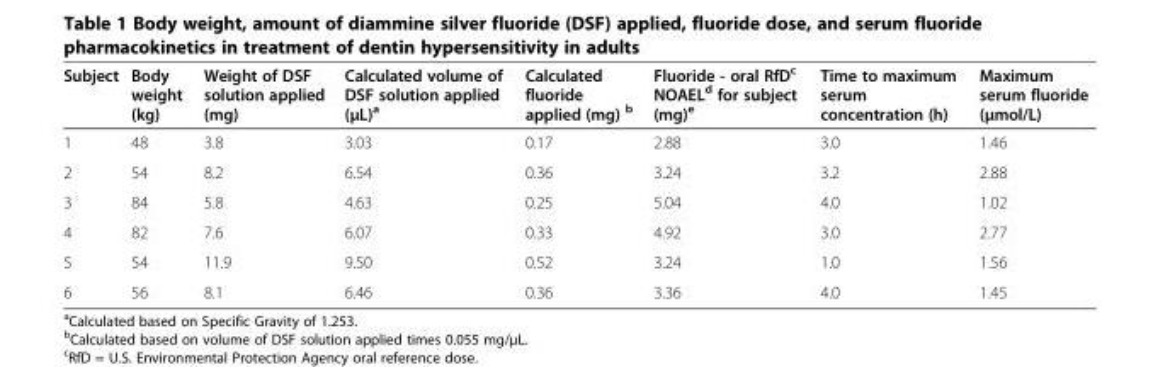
<table><thead><tr><td>Subject</td><td>Body weight (kg)</td><td>Weight of DSF solution applied (mg)</td><td>Calculated volume of DSF solution applied (μL)<sup>a</sup></td><td>Calculated fluoride applied (mg) <sup>b</sup></td><td>Fluoride - oral RfD<sup>c</sup> NOAEL<sup>d</sup> for subject (mg)<sup>e</sup></td><td>Time to maximum serum concentration (h)</td><td>Maximum serum fluoride (μmol/L)</td></tr></thead><tbody><tr><td>1</td><td>48</td><td>3.8</td><td>3.03</td><td>0.17</td><td>2.88</td><td>3.0</td><td>1.46</td></tr><tr><td>2</td><td>54</td><td>8.2</td><td>6.54</td><td>0.36</td><td>3.24</td><td>3.2</td><td>2.88</td></tr><tr><td>3</td><td>84</td><td>5.8</td><td>4.63</td><td>0.25</td><td>5.04</td><td>4.0</td><td>1.02</td></tr><tr><td>4</td><td>82</td><td>7.6</td><td>6.07</td><td>0.33</td><td>4.92</td><td>3.0</td><td>2.77</td></tr><tr><td>5</td><td>54</td><td>11.9</td><td>9.50</td><td>0.52</td><td>3.24</td><td>1.0</td><td>1.56</td></tr><tr><td>6</td><td>56</td><td>8.1</td><td>6.46</td><td>0.36</td><td>3.36</td><td>4.0</td><td>1.45</td></tr></tbody></table>